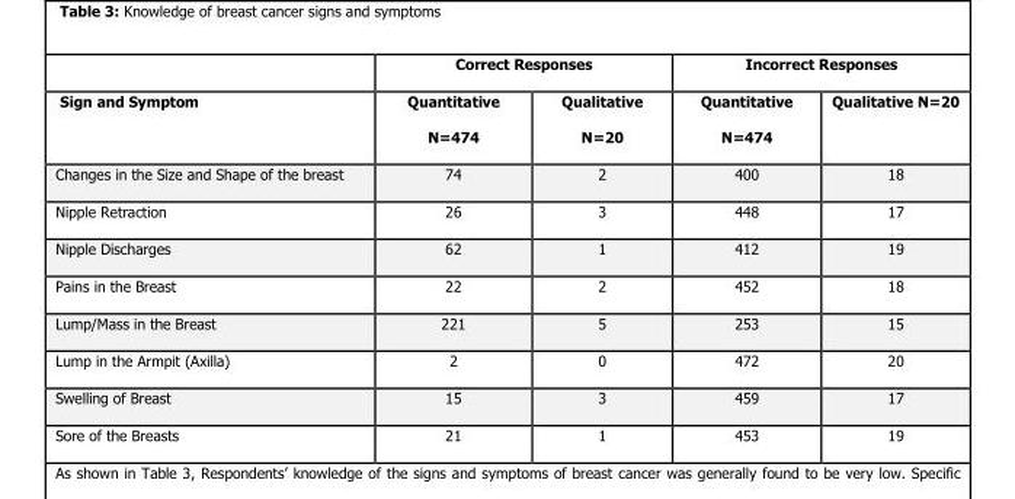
<table><thead><tr><td rowspan="2">Sign and Symptom</td><td colspan="2">Correct Responses</td><td colspan="2">Incorrect Responses</td></tr><tr><td>Quantitative N=474</td><td>Qualitative N=20</td><td>Quantitative N=474</td><td>Qualitative N=20</td></tr></thead><tbody><tr><td>Changes in the Size and Shape of the breast</td><td>74</td><td>2</td><td>400</td><td>18</td></tr><tr><td>Nipple Retraction</td><td>26</td><td>3</td><td>448</td><td>17</td></tr><tr><td>Nipple Discharges</td><td>62</td><td>1</td><td>412</td><td>19</td></tr><tr><td>Pains in the Breast</td><td>22</td><td>2</td><td>452</td><td>18</td></tr><tr><td>Lump/Mass in the Breast</td><td>221</td><td>5</td><td>253</td><td>15</td></tr><tr><td>Lump in the Armpit (Axilla)</td><td>2</td><td>0</td><td>472</td><td>20</td></tr><tr><td>Swelling of Breast</td><td>15</td><td>3</td><td>459</td><td>17</td></tr><tr><td>Sore of the Breasts</td><td>21</td><td>1</td><td>453</td><td>19</td></tr></tbody></table>